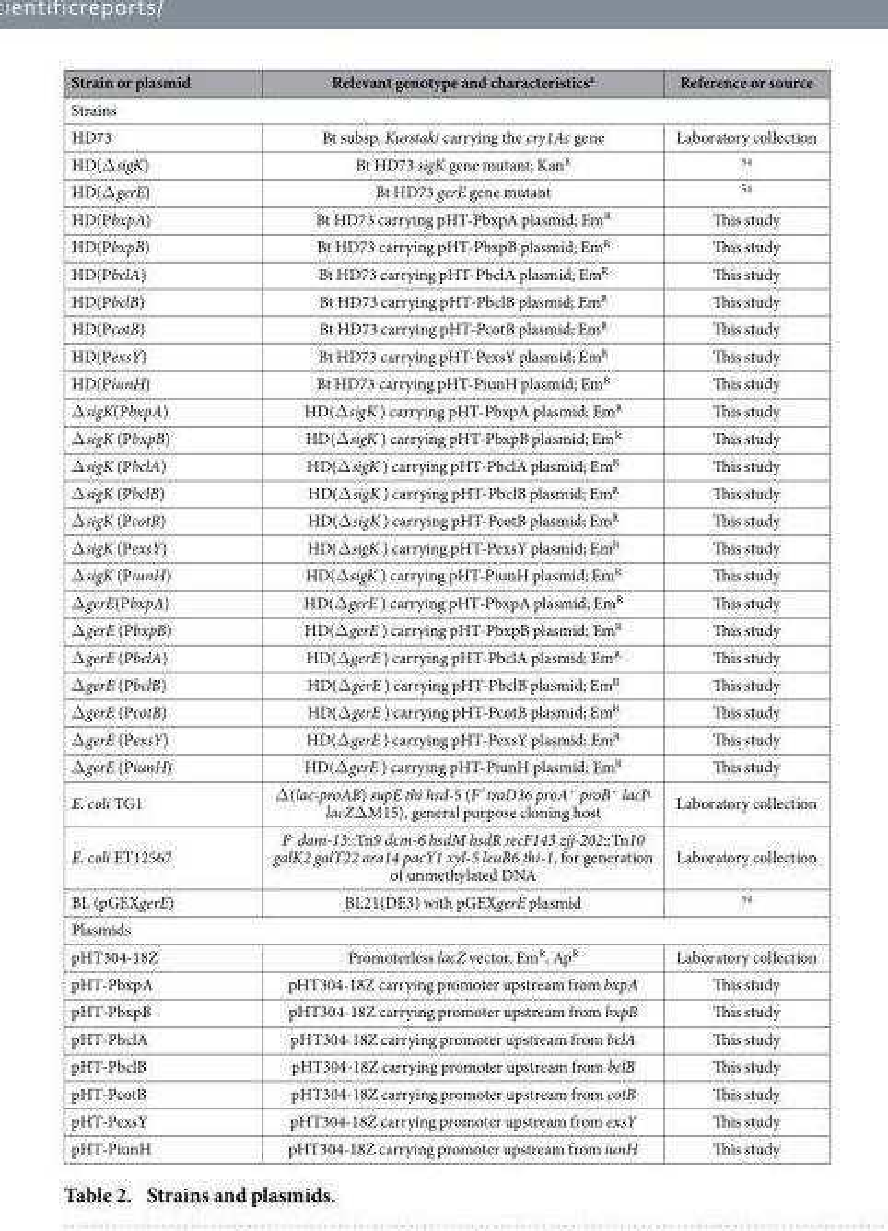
<table><thead><tr><td>Strain or plasmid</td><td>Relevant genotype and characteristics<sup>a</sup></td><td>Reference or source</td></tr></thead><tbody><tr><td colspan="3">Strains</td></tr><tr><td>HD73</td><td>Bt subsp. Kurstaki carrying the cry1Ac gene</td><td>Laboratory collection</td></tr><tr><td>HD(Δ sigK)</td><td>Bt HD73 sigK gene mutant; Kan<sup>R</sup></td><td>54</td></tr><tr><td>HD(Δ gerE)</td><td>Bt HD73 gerE gene mutant</td><td>54</td></tr><tr><td>HD(PbxpA)</td><td>Bt HD73 carrying pHT-PbxpA plasmid; Em<sup>R</sup></td><td>This study</td></tr><tr><td>HD(PbxpB)</td><td>Bt HD73 carrying pHT-PbxpB plasmid; Em<sup>R</sup></td><td>This study</td></tr><tr><td>HD(PbclA)</td><td>Bt HD73 carrying pHT-PbclA plasmid; Em<sup>R</sup></td><td>This study</td></tr><tr><td>HD(PbclB)</td><td>Bt HD73 carrying pHT-PbclB plasmid; Em<sup>R</sup></td><td>This study</td></tr><tr><td>HD(PcotB)</td><td>Bt HD73 carrying pHT-PcotB plasmid; Em<sup>R</sup></td><td>This study</td></tr><tr><td>HD(PexsY)</td><td>Bt HD73 carrying pHT-PexsY plasmid; Em<sup>R</sup></td><td>This study</td></tr><tr><td>HD(PiunH)</td><td>Bt HD73 carrying pHT-PiunH plasmid; Em<sup>R</sup></td><td>This study</td></tr><tr><td>Δ sigK(PbxpA)</td><td>HD(Δ sigK ) carrying pHT-PbxpA plasmid; Em<sup>R</sup></td><td>This study</td></tr><tr><td>Δ sigK (PbxpB)</td><td>HD(Δ sigK ) carrying pHT-PbxpB plasmid; Em<sup>R</sup></td><td>This study</td></tr><tr><td>Δ sigK (PbclA)</td><td>HD(Δ sigK ) carrying pHT-PbclA plasmid; Em<sup>R</sup></td><td>This study</td></tr><tr><td>Δ sigK (PbclB)</td><td>HD(Δ sigK ) carrying pHT-PbclB plasmid; Em<sup>R</sup></td><td>This study</td></tr><tr><td>Δ sigK (PcotB)</td><td>HD(Δ sigK ) carrying pHT-PcotB plasmid; Em<sup>R</sup></td><td>This study</td></tr><tr><td>Δ sigK (PexsY)</td><td>HD(Δ sigK ) carrying pHT-PexsY plasmid; Em<sup>R</sup></td><td>This study</td></tr><tr><td>Δ sigK (PiunH)</td><td>HD(Δ sigK ) carrying pHT-PiunH plasmid; Em<sup>R</sup></td><td>This study</td></tr><tr><td>Δ gerE(PbxpA)</td><td>HD(Δ gerE ) carrying pHT-PbxpA plasmid; Em<sup>R</sup></td><td>This study</td></tr><tr><td>Δ gerE (PbxpB)</td><td>HD(Δ gerE ) carrying pHT-PbxpB plasmid; Em<sup>R</sup></td><td>This study</td></tr><tr><td>Δ gerE (PbclA)</td><td>HD(Δ gerE ) carrying pHT-PbclA plasmid; Em<sup>R</sup></td><td>This study</td></tr><tr><td>Δ gerE (PbclB)</td><td>HD(Δ gerE ) carrying pHT-PbclB plasmid; Em<sup>R</sup></td><td>This study</td></tr><tr><td>Δ gerE (PcotB)</td><td>HD(Δ gerE ) carrying pHT-PcotB plasmid; Em<sup>R</sup></td><td>This study</td></tr><tr><td>Δ gerE (PexsY)</td><td>HD(Δ gerE ) carrying pHT-PexsY plasmid; Em<sup>R</sup></td><td>This study</td></tr><tr><td>Δ gerE (PiunH)</td><td>HD(Δ gerE ) carrying pHT-PiunH plasmid; Em<sup>R</sup></td><td>This study</td></tr><tr><td>E. coli TG1</td><td>Δ (lac-proAB) supE thi hsd-5 (F’ traD36 proA<sup>+</sup> proB<sup>+</sup> lacI<sup>q</sup> lacZΔ M15), general purpose cloning host</td><td>Laboratory collection</td></tr><tr><td>E. coli ET12567</td><td>F<sup>-</sup> dam-13::Tn9 dcm-6 hsdM hsdR recF143 zjj-202::Tn10 galK2 galT22 ara14 pacY1 xyl-5 leuB6 thi-1, for generation of unmethylated DNA</td><td>Laboratory collection</td></tr><tr><td>BL (pGEXgerE)</td><td>BL21(DE3) with pGEXgerE plasmid</td><td>54</td></tr><tr><td colspan="3">Plasmids</td></tr><tr><td>pHT304-18Z</td><td>Promoterless lacZ vector, Em<sup>R</sup>, Ap<sup>R</sup></td><td>Laboratory collection</td></tr><tr><td>pHT-PbxpA</td><td>pHT304-18Z carrying promoter upstream from bxpA</td><td>This study</td></tr><tr><td>pHT-PbxpB</td><td>pHT304-18Z carrying promoter upstream from bxpB</td><td>This study</td></tr><tr><td>pHT-PbclA</td><td>pHT304-18Z carrying promoter upstream from bclA</td><td>This study</td></tr><tr><td>pHT-PbclB</td><td>pHT304-18Z carrying promoter upstream from bclB</td><td>This study</td></tr><tr><td>pHT-PcotB</td><td>pHT304-18Z carrying promoter upstream from cotB</td><td>This study</td></tr><tr><td>pHT-PexsY</td><td>pHT304-18Z carrying promoter upstream from exsY</td><td>This study</td></tr><tr><td>pHT-PiunH</td><td>pHT304-18Z carrying promoter upstream from iunH</td><td>This study</td></tr></tbody></table>